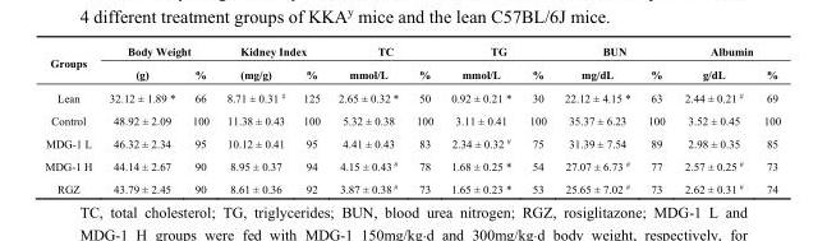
<table><thead><tr><td rowspan="2">Groups</td><td colspan="2">Body Weight</td><td colspan="2">Kidney Index</td><td colspan="2">TC</td><td colspan="2">TG</td><td colspan="2">BUN</td><td colspan="2">Albumin</td></tr><tr><td>(g)</td><td>%</td><td>(mg/g)</td><td>%</td><td>mmol/L</td><td>%</td><td>mmol/L</td><td>%</td><td>mg/dL</td><td>%</td><td>g/dL</td><td>%</td></tr></thead><tbody><tr><td>Lean</td><td>32.12 ± 1.89 *</td><td>66</td><td>8.71 ± 0.31 <sup>#</sup></td><td>125</td><td>2.65 ± 0.32 *</td><td>50</td><td>0.92 ± 0.21 *</td><td>30</td><td>22.12 ± 4.15 *</td><td>63</td><td>2.44 ± 0.21 <sup>#</sup></td><td>69</td></tr><tr><td>Control</td><td>48.92 ± 2.09</td><td>100</td><td>11.38 ± 0.43</td><td>100</td><td>5.32 ± 0.38</td><td>100</td><td>3.11 ± 0.41</td><td>100</td><td>35.37 ± 6.23</td><td>100</td><td>3.52 ± 0.45</td><td>100</td></tr><tr><td>MDG-1 L</td><td>46.32 ± 2.34</td><td>95</td><td>10.12 ± 0.41</td><td>95</td><td>4.41 ± 0.43</td><td>83</td><td>2.34 ± 0.32 <sup>#</sup></td><td>75</td><td>31.39 ± 7.54</td><td>89</td><td>2.98 ± 0.35</td><td>85</td></tr><tr><td>MDG-1 H</td><td>44.14 ± 2.67</td><td>90</td><td>8.95 ± 0.37</td><td>94</td><td>4.15 ± 0.43 <sup>#</sup></td><td>78</td><td>1.68 ± 0.25 *</td><td>54</td><td>27.07 ± 6.73 <sup>#</sup></td><td>77</td><td>2.57 ± 0.25 <sup>#</sup></td><td>73</td></tr><tr><td>RGZ</td><td>43.79 ± 2.45</td><td>90</td><td>8.61 ± 0.36</td><td>92</td><td>3.87 ± 0.38 <sup>#</sup></td><td>73</td><td>1.65 ± 0.23 *</td><td>53</td><td>25.65 ± 7.02 <sup>#</sup></td><td>73</td><td>2.62 ± 0.31 <sup>#</sup></td><td>74</td></tr></tbody></table>